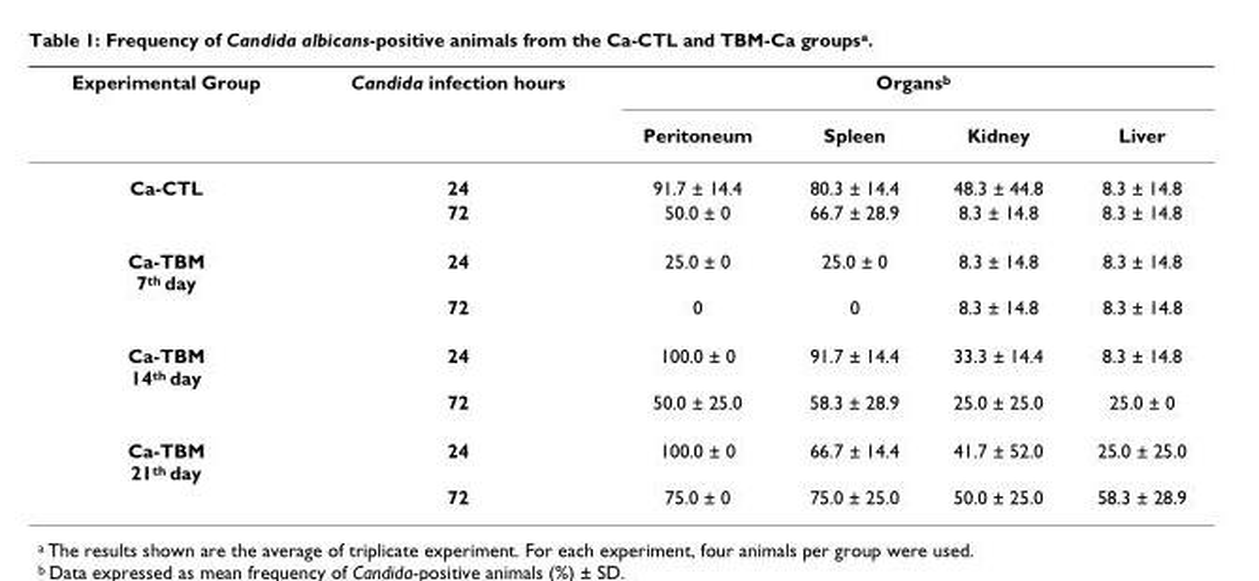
<table><thead><tr><td rowspan="2">Experimental Group</td><td rowspan="2">Candida infection hours</td><td colspan="4">Organs<sup>b</sup></td></tr><tr><td>Peritoneum</td><td>Spleen</td><td>Kidney</td><td>Liver</td></tr></thead><tbody><tr><td rowspan="2">Ca-CTL</td><td>24</td><td>91.7 ± 14.4</td><td>80.3 ± 14.4</td><td>48.3 ± 44.8</td><td>8.3 ± 14.8</td></tr><tr><td>72</td><td>50.0 ± 0</td><td>66.7 ± 28.9</td><td>8.3 ± 14.8</td><td>8.3 ± 14.8</td></tr><tr><td rowspan="2">Ca-TBM 7<sup>th</sup> day</td><td>24</td><td>25.0 ± 0</td><td>25.0 ± 0</td><td>8.3 ± 14.8</td><td>8.3 ± 14.8</td></tr><tr><td>72</td><td>0</td><td>0</td><td>8.3 ± 14.8</td><td>8.3 ± 14.8</td></tr><tr><td rowspan="2">Ca-TBM 14<sup>th</sup> day</td><td>24</td><td>100.0 ± 0</td><td>91.7 ± 14.4</td><td>33.3 ± 14.4</td><td>8.3 ± 14.8</td></tr><tr><td>72</td><td>50.0 ± 25.0</td><td>58.3 ± 28.9</td><td>25.0 ± 25.0</td><td>25.0 ± 0</td></tr><tr><td rowspan="2">Ca-TBM 21<sup>th</sup> day</td><td>24</td><td>100.0 ± 0</td><td>66.7 ± 14.4</td><td>41.7 ± 52.0</td><td>25.0 ± 25.0</td></tr><tr><td>72</td><td>75.0 ± 0</td><td>75.0 ± 25.0</td><td>50.0 ± 25.0</td><td>58.3 ± 28.9</td></tr></tbody></table>